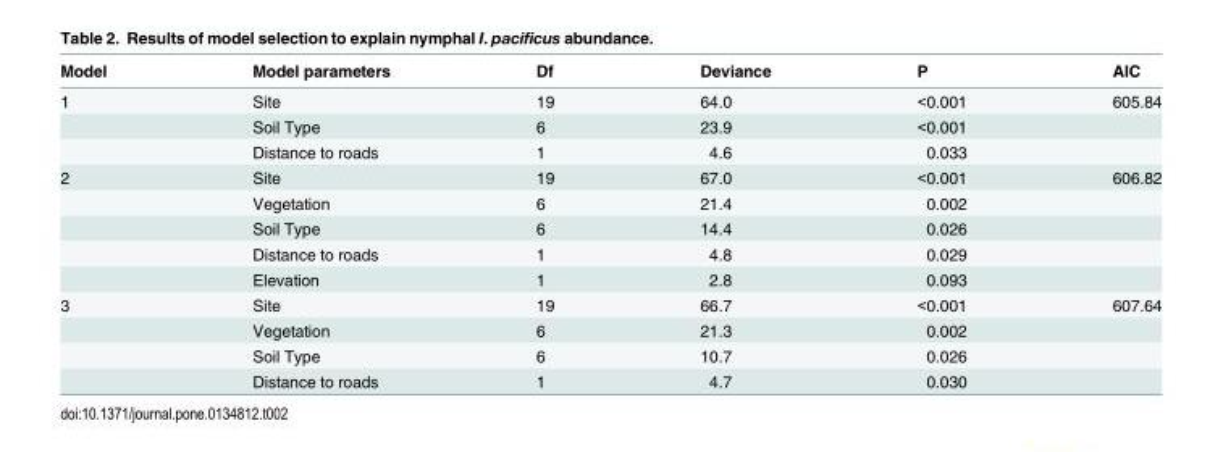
<table><thead><tr><td>Model</td><td>Model parameters</td><td>Df</td><td>Deviance</td><td>P</td><td>AIC</td></tr></thead><tbody><tr><td rowspan="3">1</td><td>Site</td><td>19</td><td>64.0</td><td>&lt;0.001</td><td>605.84</td></tr><tr><td>Soil Type</td><td>6</td><td>23.9</td><td>&lt;0.001</td><td></td></tr><tr><td>Distance to roads</td><td>1</td><td>4.6</td><td>0.033</td><td></td></tr><tr><td rowspan="5">2</td><td>Site</td><td>19</td><td>67.0</td><td>&lt;0.001</td><td>606.82</td></tr><tr><td>Vegetation</td><td>6</td><td>21.4</td><td>0.002</td><td></td></tr><tr><td>Soil Type</td><td>6</td><td>14.4</td><td>0.026</td><td></td></tr><tr><td>Distance to roads</td><td>1</td><td>4.8</td><td>0.029</td><td></td></tr><tr><td>Elevation</td><td>1</td><td>2.8</td><td>0.093</td><td></td></tr><tr><td rowspan="4">3</td><td>Site</td><td>19</td><td>66.7</td><td>&lt;0.001</td><td>607.64</td></tr><tr><td>Vegetation</td><td>6</td><td>21.3</td><td>0.002</td><td></td></tr><tr><td>Soil Type</td><td>6</td><td>10.7</td><td>0.026</td><td></td></tr><tr><td>Distance to roads</td><td>1</td><td>4.7</td><td>0.030</td><td></td></tr></tbody></table>